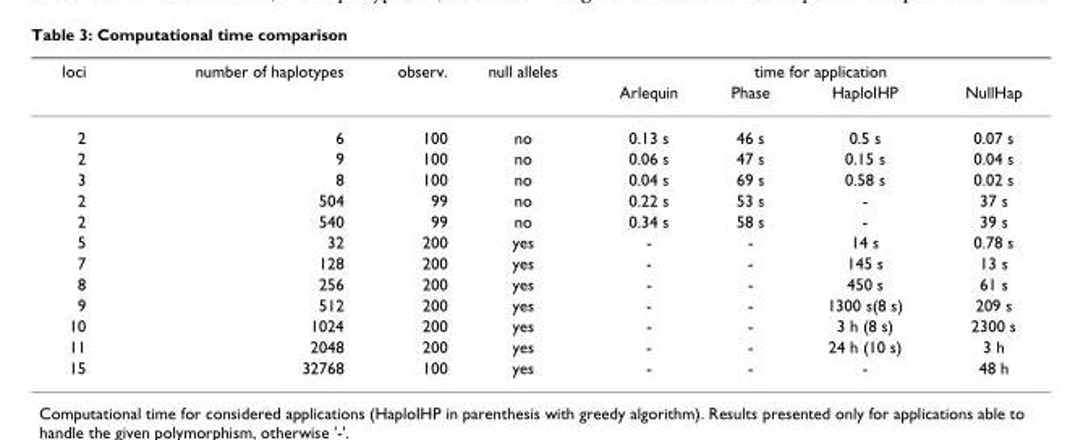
<table><thead><tr><td rowspan="2">loci</td><td rowspan="2">number of haplotypes</td><td rowspan="2">observ.</td><td rowspan="2">null alleles</td><td colspan="4">time for application</td></tr><tr><td>Arlequin</td><td>Phase</td><td>HaploIHP</td><td>NullHap</td></tr></thead><tbody><tr><td>2</td><td>6</td><td>100</td><td>no</td><td>0.13 s</td><td>46 s</td><td>0.5 s</td><td>0.07 s</td></tr><tr><td>2</td><td>9</td><td>100</td><td>no</td><td>0.06 s</td><td>47 s</td><td>0.15 s</td><td>0.04 s</td></tr><tr><td>3</td><td>8</td><td>100</td><td>no</td><td>0.04 s</td><td>69 s</td><td>0.58 s</td><td>0.02 s</td></tr><tr><td>2</td><td>504</td><td>99</td><td>no</td><td>0.22 s</td><td>53 s</td><td>-</td><td>37 s</td></tr><tr><td>2</td><td>540</td><td>99</td><td>no</td><td>0.34 s</td><td>58 s</td><td>-</td><td>39 s</td></tr><tr><td>5</td><td>32</td><td>200</td><td>yes</td><td>-</td><td>-</td><td>14 s</td><td>0.78 s</td></tr><tr><td>7</td><td>128</td><td>200</td><td>yes</td><td>-</td><td>-</td><td>145 s</td><td>13 s</td></tr><tr><td>8</td><td>256</td><td>200</td><td>yes</td><td>-</td><td>-</td><td>450 s</td><td>61 s</td></tr><tr><td>9</td><td>512</td><td>200</td><td>yes</td><td>-</td><td>-</td><td>1300 s(8 s)</td><td>209 s</td></tr><tr><td>10</td><td>1024</td><td>200</td><td>yes</td><td>-</td><td>-</td><td>3 h (8 s)</td><td>2300 s</td></tr><tr><td>11</td><td>2048</td><td>200</td><td>yes</td><td>-</td><td>-</td><td>24 h (10 s)</td><td>3 h</td></tr><tr><td>15</td><td>32768</td><td>100</td><td>yes</td><td>-</td><td>-</td><td>-</td><td>48 h</td></tr></tbody></table>